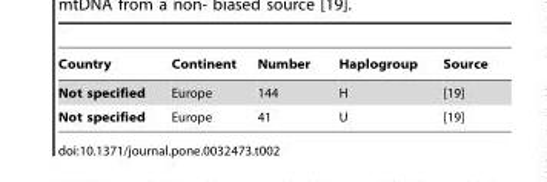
<table><thead><tr><td>Country</td><td>Continent</td><td>Number</td><td>Haplogroup</td><td>Source</td></tr></thead><tbody><tr><td>Not specified</td><td>Europe</td><td>144</td><td>H</td><td>[19]</td></tr><tr><td>Not specified</td><td>Europe</td><td>41</td><td>U</td><td>[19]</td></tr></tbody></table>